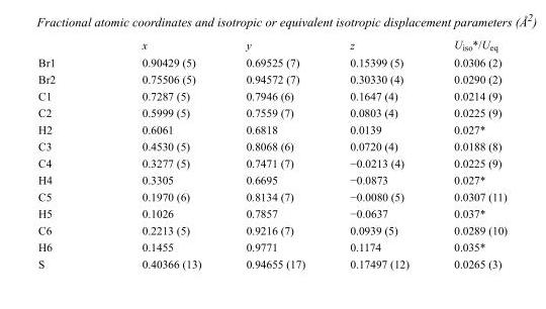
<table><thead><tr><td></td><td>x</td><td>y</td><td>z</td><td>U<sub>iso</sub>*/U<sub>eq</sub></td></tr></thead><tbody><tr><td>Br1</td><td>0.90429 (5)</td><td>0.69525 (7)</td><td>0.15399 (5)</td><td>0.0306 (2)</td></tr><tr><td>Br2</td><td>0.75506 (5)</td><td>0.94572 (7)</td><td>0.30330 (4)</td><td>0.0290 (2)</td></tr><tr><td>C1</td><td>0.7287 (5)</td><td>0.7946 (6)</td><td>0.1647 (4)</td><td>0.0214 (9)</td></tr><tr><td>C2</td><td>0.5999 (5)</td><td>0.7559 (7)</td><td>0.0803 (4)</td><td>0.0225 (9)</td></tr><tr><td>H2</td><td>0.6061</td><td>0.6818</td><td>0.0139</td><td>0.027*</td></tr><tr><td>C3</td><td>0.4530 (5)</td><td>0.8068 (6)</td><td>0.0720 (4)</td><td>0.0188 (8)</td></tr><tr><td>C4</td><td>0.3277 (5)</td><td>0.7471 (7)</td><td>−0.0213 (4)</td><td>0.0225 (9)</td></tr><tr><td>H4</td><td>0.3305</td><td>0.6695</td><td>−0.0873</td><td>0.027*</td></tr><tr><td>C5</td><td>0.1970 (6)</td><td>0.8134 (7)</td><td>−0.0080 (5)</td><td>0.0307 (11)</td></tr><tr><td>H5</td><td>0.1026</td><td>0.7857</td><td>−0.0637</td><td>0.037*</td></tr><tr><td>C6</td><td>0.2213 (5)</td><td>0.9216 (7)</td><td>0.0939 (5)</td><td>0.0289 (10)</td></tr><tr><td>H6</td><td>0.1455</td><td>0.9771</td><td>0.1174</td><td>0.035*</td></tr><tr><td>S</td><td>0.40366 (13)</td><td>0.94655 (17)</td><td>0.17497 (12)</td><td>0.0265 (3)</td></tr></tbody></table>